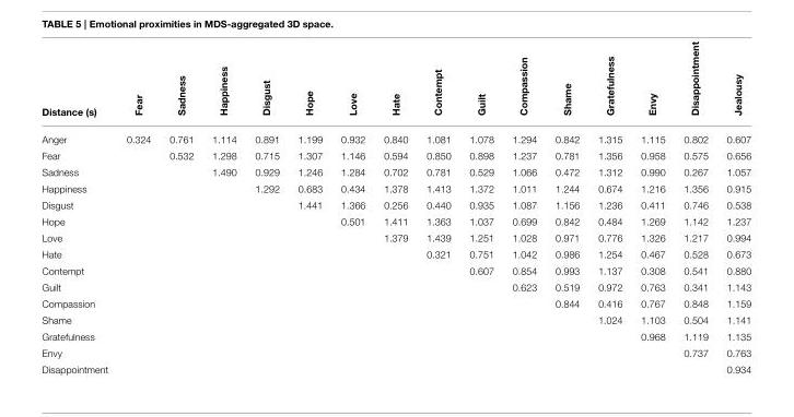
<table><thead><tr><td>Distance (s)</td><td>Fear</td><td>Sadness</td><td>Happiness</td><td>Disgust</td><td>Hope</td><td>Love</td><td>Hate</td><td>Contempt</td><td>Guilt</td><td>Compassion</td><td>Shame</td><td>Gratefulness</td><td>Envy</td><td>Disappointment</td><td>Jealousy</td></tr></thead><tbody><tr><td>Anger</td><td>0.324</td><td>0.761</td><td>1.114</td><td>0.891</td><td>1.199</td><td>0.932</td><td>0.840</td><td>1.081</td><td>1.078</td><td>1.294</td><td>0.842</td><td>1.315</td><td>1.115</td><td>0.802</td><td>0.607</td></tr><tr><td>Fear</td><td></td><td>0.532</td><td>1.298</td><td>0.715</td><td>1.307</td><td>1.146</td><td>0.594</td><td>0.850</td><td>0.898</td><td>1.237</td><td>0.781</td><td>1.356</td><td>0.958</td><td>0.575</td><td>0.656</td></tr><tr><td>Sadness</td><td></td><td></td><td>1.490</td><td>0.929</td><td>1.246</td><td>1.284</td><td>0.702</td><td>0.781</td><td>0.529</td><td>1.066</td><td>0.472</td><td>1.312</td><td>0.990</td><td>0.267</td><td>1.057</td></tr><tr><td>Happiness</td><td></td><td></td><td></td><td>1.292</td><td>0.683</td><td>0.434</td><td>1.378</td><td>1.413</td><td>1.372</td><td>1.011</td><td>1.244</td><td>0.674</td><td>1.216</td><td>1.356</td><td>0.915</td></tr><tr><td>Disgust</td><td></td><td></td><td></td><td></td><td>1.441</td><td>1.366</td><td>0.256</td><td>0.440</td><td>0.935</td><td>1.087</td><td>1.156</td><td>1.236</td><td>0.411</td><td>0.746</td><td>0.538</td></tr><tr><td>Hope</td><td></td><td></td><td></td><td></td><td></td><td>0.501</td><td>1.411</td><td>1.363</td><td>1.037</td><td>0.699</td><td>0.842</td><td>0.484</td><td>1.269</td><td>1.142</td><td>1.237</td></tr><tr><td>Love</td><td></td><td></td><td></td><td></td><td></td><td></td><td>1.379</td><td>1.439</td><td>1.251</td><td>1.028</td><td>0.971</td><td>0.776</td><td>1.326</td><td>1.217</td><td>0.994</td></tr><tr><td>Hate</td><td></td><td></td><td></td><td></td><td></td><td></td><td></td><td>0.321</td><td>0.751</td><td>1.042</td><td>0.986</td><td>1.254</td><td>0.467</td><td>0.528</td><td>0.673</td></tr><tr><td>Contempt</td><td></td><td></td><td></td><td></td><td></td><td></td><td></td><td></td><td>0.607</td><td>0.854</td><td>0.993</td><td>1.137</td><td>0.308</td><td>0.541</td><td>0.880</td></tr><tr><td>Guilt</td><td></td><td></td><td></td><td></td><td></td><td></td><td></td><td></td><td></td><td>0.623</td><td>0.519</td><td>0.972</td><td>0.763</td><td>0.341</td><td>1.143</td></tr><tr><td>Compassion</td><td></td><td></td><td></td><td></td><td></td><td></td><td></td><td></td><td></td><td></td><td>0.844</td><td>0.416</td><td>0.767</td><td>0.848</td><td>1.159</td></tr><tr><td>Shame</td><td></td><td></td><td></td><td></td><td></td><td></td><td></td><td></td><td></td><td></td><td></td><td>1.024</td><td>1.103</td><td>0.504</td><td>1.141</td></tr><tr><td>Gratefulness</td><td></td><td></td><td></td><td></td><td></td><td></td><td></td><td></td><td></td><td></td><td></td><td></td><td>0.968</td><td>1.119</td><td>1.135</td></tr><tr><td>Envy</td><td></td><td></td><td></td><td></td><td></td><td></td><td></td><td></td><td></td><td></td><td></td><td></td><td></td><td>0.737</td><td>0.763</td></tr><tr><td>Disappointment</td><td></td><td></td><td></td><td></td><td></td><td></td><td></td><td></td><td></td><td></td><td></td><td></td><td></td><td></td><td>0.934</td></tr></tbody></table>